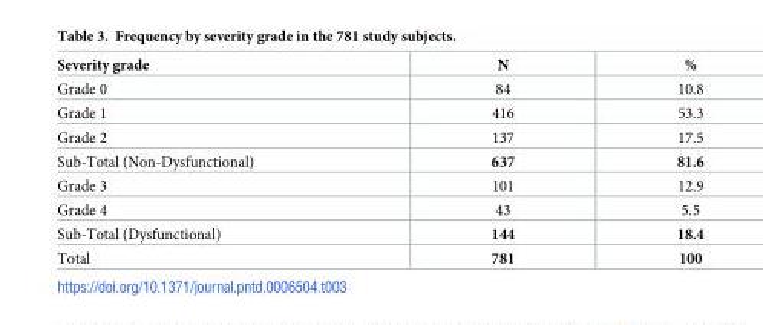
<table><thead><tr><td>Severity grade</td><td>N</td><td>%</td></tr></thead><tbody><tr><td>Grade 0</td><td>84</td><td>10.8</td></tr><tr><td>Grade 1</td><td>416</td><td>53.3</td></tr><tr><td>Grade 2</td><td>137</td><td>17.5</td></tr><tr><td>Sub-Total (Non-Dysfunctional)</td><td>637</td><td>81.6</td></tr><tr><td>Grade 3</td><td>101</td><td>12.9</td></tr><tr><td>Grade 4</td><td>43</td><td>5.5</td></tr><tr><td>Sub-Total (Dysfunctional)</td><td>144</td><td>18.4</td></tr><tr><td>Total</td><td>781</td><td>100</td></tr></tbody></table>